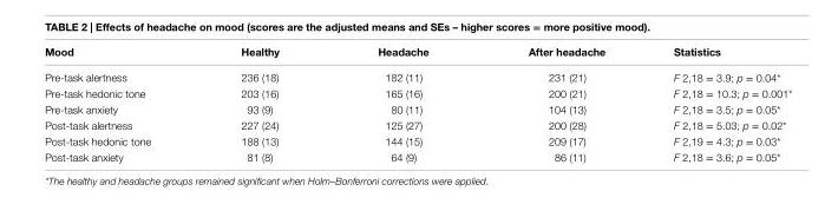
<table><thead><tr><td>Mood</td><td>healthy</td><td>headache</td><td>after headache</td><td>statistics</td></tr></thead><tbody><tr><td>Pre-task alertness</td><td>236 (18)</td><td>182 (11)</td><td>231 (21)</td><td>F 2,18 = 3.9; p = 0.04*</td></tr><tr><td>Pre-task hedonic tone</td><td>203 (16)</td><td>165 (16)</td><td>200 (21)</td><td>F 2,18 = 10.3; p = 0.001*</td></tr><tr><td>Pre-task anxiety</td><td>93 (9)</td><td>80 (11)</td><td>104 (13)</td><td>F 2,18 = 3.5; p = 0.05*</td></tr><tr><td>Post-task alertness</td><td>227 (24)</td><td>125 (27)</td><td>200 (28)</td><td>F 2,18 = 5.03; p = 0.02*</td></tr><tr><td>Post-task hedonic tone</td><td>188 (13)</td><td>144 (15)</td><td>209 (17)</td><td>F 2,19 = 4.3; p = 0.03*</td></tr><tr><td>Post-task anxiety</td><td>81 (8)</td><td>64 (9)</td><td>86 (11)</td><td>F 2,18 = 3.6; p = 0.05*</td></tr></tbody></table>